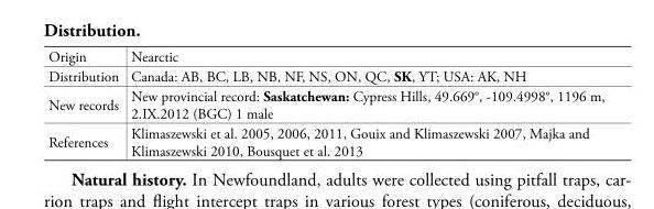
<table><tbody><tr><td>Origin</td><td>Nearctic</td></tr><tr><td>Distribution</td><td>Canada: AB, BC, LB, NB, NF, NS, ON, QC, SK, YT; USA: AK, NH</td></tr><tr><td>New records</td><td>New provincial record: Saskatchewan: Cypress Hills, 49.669°, -109.4998°, 1196 m, 2.IX.2012 (BGC) 1 male</td></tr><tr><td>References</td><td>Klimaszewski et al. 2005, 2006, 2011, Gouix and Klimaszewski 2007, Majka and Klimaszewski 2010, Bousquet et al. 2013</td></tr></tbody></table>